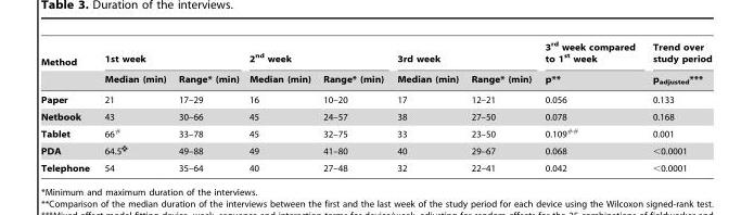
<table><thead><tr><td rowspan="2">Method</td><td colspan="2">1st week</td><td colspan="2">2<sup>nd</sup> week</td><td colspan="2">3rd week</td><td rowspan="2">3<sup>rd</sup> week compared to 1<sup>st</sup> week p**</td><td rowspan="2">Trend over study period p<sub>adjusted</sub>***</td></tr><tr><td>Median (min)</td><td>Range* (min)</td><td>Median (min)</td><td>Range* (min)</td><td>Median (min)</td><td>Range* (min)</td></tr></thead><tbody><tr><td>Paper</td><td>21</td><td>17–29</td><td>16</td><td>10–20</td><td>17</td><td>12–21</td><td>0.056</td><td>0.133</td></tr><tr><td>Netbook</td><td>43</td><td>30–66</td><td>45</td><td>24–57</td><td>38</td><td>27–50</td><td>0.078</td><td>0.168</td></tr><tr><td>Tablet</td><td>66#</td><td>33–78</td><td>45</td><td>32–75</td><td>33</td><td>23–50</td><td>0.109##</td><td>0.001</td></tr><tr><td>PDA</td><td>64.5</td><td>49–88</td><td>49</td><td>41–80</td><td>40</td><td>29–67</td><td>0.068</td><td>&lt;0.0001</td></tr><tr><td>Telephone</td><td>54</td><td>35–64</td><td>40</td><td>27–48</td><td>32</td><td>22–41</td><td>0.042</td><td>&lt;0.0001</td></tr></tbody></table>